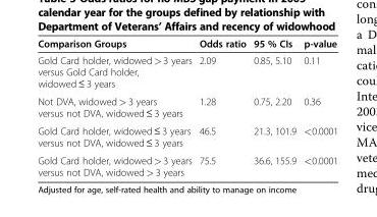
<table><thead><tr><td>Comparison Groups</td><td>Odds ratio</td><td>95 % CIs</td><td>p-value</td></tr></thead><tbody><tr><td>Gold Card holder, widowed &gt; 3 years versus Gold Card holder, widowed ≤ 3 years</td><td>2.09</td><td>0.85, 5.10</td><td>0.11</td></tr><tr><td>Not DVA, widowed &gt; 3 years versus not DVA, widowed ≤ 3 years</td><td>1.28</td><td>0.75, 2.20</td><td>0.36</td></tr><tr><td>Gold Card holder, widowed ≤ 3 years versus not DVA, widowed ≤ 3 years</td><td>46.5</td><td>21.3, 101.9</td><td>&lt;0.0001</td></tr><tr><td>Gold Card holder, widowed &gt; 3 years versus not DVA, widowed &gt; 3 years</td><td>75.5</td><td>36.6, 155.9</td><td>&lt;0.0001</td></tr></tbody></table>